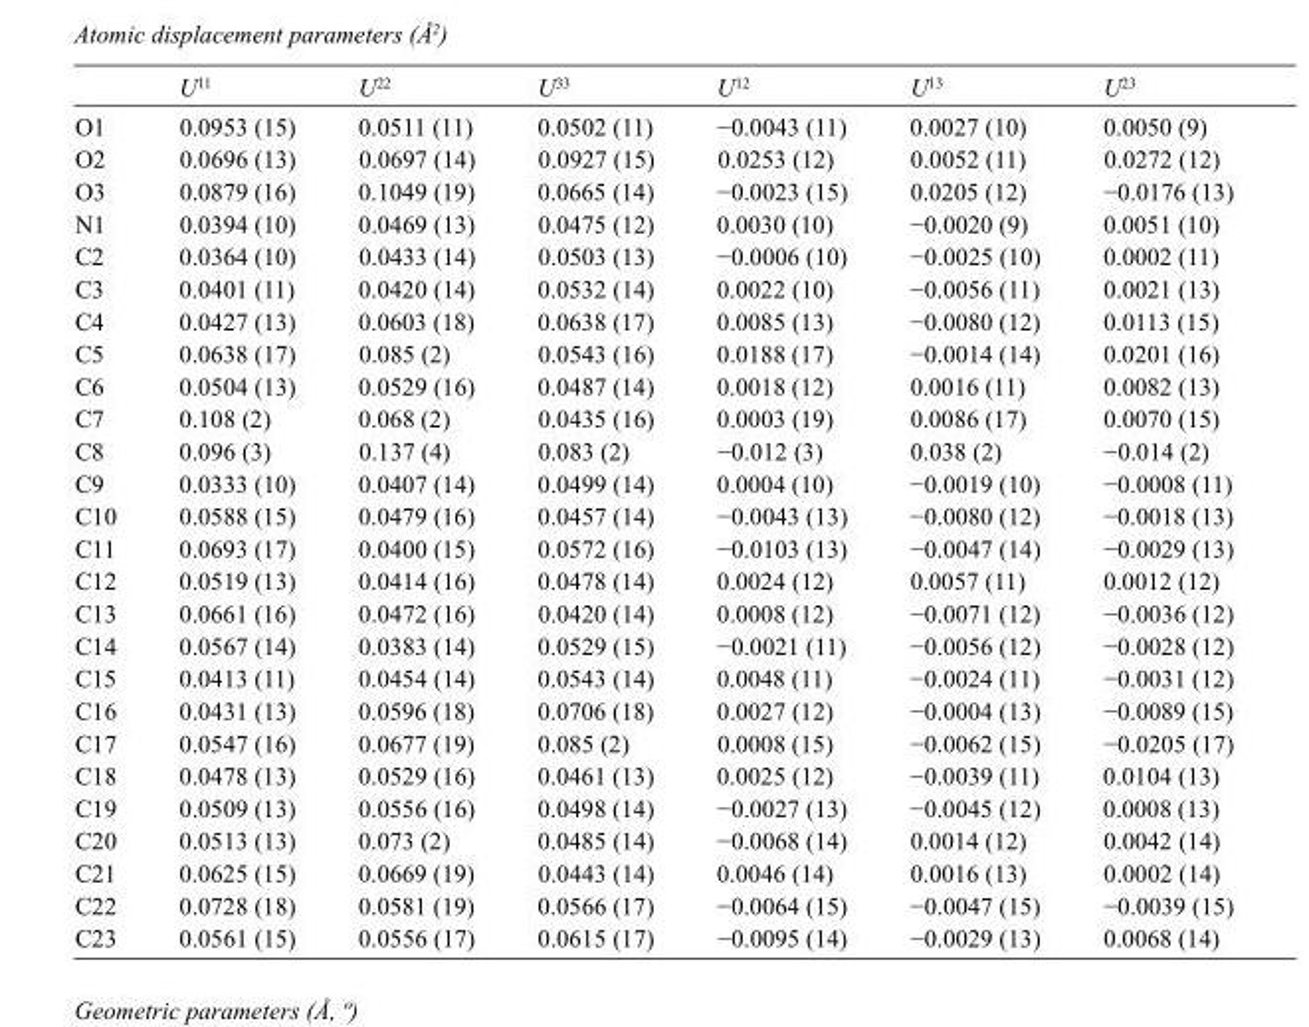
<table><thead><tr><td></td><td>U<sup>11</sup></td><td>U<sup>22</sup></td><td>U<sup>33</sup></td><td>U<sup>12</sup></td><td>U<sup>13</sup></td><td>U<sup>23</sup></td></tr></thead><tbody><tr><td>O1</td><td>0.0953 (15)</td><td>0.0511 (11)</td><td>0.0502 (11)</td><td>−0.0043 (11)</td><td>0.0027 (10)</td><td>0.0050 (9)</td></tr><tr><td>O2</td><td>0.0696 (13)</td><td>0.0697 (14)</td><td>0.0927 (15)</td><td>0.0253 (12)</td><td>0.0052 (11)</td><td>0.0272 (12)</td></tr><tr><td>O3</td><td>0.0879 (16)</td><td>0.1049 (19)</td><td>0.0665 (14)</td><td>−0.0023 (15)</td><td>0.0205 (12)</td><td>−0.0176 (13)</td></tr><tr><td>N1</td><td>0.0394 (10)</td><td>0.0469 (13)</td><td>0.0475 (12)</td><td>0.0030 (10)</td><td>−0.0020 (9)</td><td>0.0051 (10)</td></tr><tr><td>C2</td><td>0.0364 (10)</td><td>0.0433 (14)</td><td>0.0503 (13)</td><td>−0.0006 (10)</td><td>−0.0025 (10)</td><td>0.0002 (11)</td></tr><tr><td>C3</td><td>0.0401 (11)</td><td>0.0420 (14)</td><td>0.0532 (14)</td><td>0.0022 (10)</td><td>−0.0056 (11)</td><td>0.0021 (13)</td></tr><tr><td>C4</td><td>0.0427 (13)</td><td>0.0603 (18)</td><td>0.0638 (17)</td><td>0.0085 (13)</td><td>−0.0080 (12)</td><td>0.0113 (15)</td></tr><tr><td>C5</td><td>0.0638 (17)</td><td>0.085 (2)</td><td>0.0543 (16)</td><td>0.0188 (17)</td><td>−0.0014 (14)</td><td>0.0201 (16)</td></tr><tr><td>C6</td><td>0.0504 (13)</td><td>0.0529 (16)</td><td>0.0487 (14)</td><td>0.0018 (12)</td><td>0.0016 (11)</td><td>0.0082 (13)</td></tr><tr><td>C7</td><td>0.108 (2)</td><td>0.068 (2)</td><td>0.0435 (16)</td><td>0.0003 (19)</td><td>0.0086 (17)</td><td>0.0070 (15)</td></tr><tr><td>C8</td><td>0.096 (3)</td><td>0.137 (4)</td><td>0.083 (2)</td><td>−0.012 (3)</td><td>0.038 (2)</td><td>−0.014 (2)</td></tr><tr><td>C9</td><td>0.0333 (10)</td><td>0.0407 (14)</td><td>0.0499 (14)</td><td>0.0004 (10)</td><td>−0.0019 (10)</td><td>−0.0008 (11)</td></tr><tr><td>C10</td><td>0.0588 (15)</td><td>0.0479 (16)</td><td>0.0457 (14)</td><td>−0.0043 (13)</td><td>−0.0080 (12)</td><td>−0.0018 (13)</td></tr><tr><td>C11</td><td>0.0693 (17)</td><td>0.0400 (15)</td><td>0.0572 (16)</td><td>−0.0103 (13)</td><td>−0.0047 (14)</td><td>−0.0029 (13)</td></tr><tr><td>C12</td><td>0.0519 (13)</td><td>0.0414 (16)</td><td>0.0478 (14)</td><td>0.0024 (12)</td><td>0.0057 (11)</td><td>0.0012 (12)</td></tr><tr><td>C13</td><td>0.0661 (16)</td><td>0.0472 (16)</td><td>0.0420 (14)</td><td>0.0008 (12)</td><td>−0.0071 (12)</td><td>−0.0036 (12)</td></tr><tr><td>C14</td><td>0.0567 (14)</td><td>0.0383 (14)</td><td>0.0529 (15)</td><td>−0.0021 (11)</td><td>−0.0056 (12)</td><td>−0.0028 (12)</td></tr><tr><td>C15</td><td>0.0413 (11)</td><td>0.0454 (14)</td><td>0.0543 (14)</td><td>0.0048 (11)</td><td>−0.0024 (11)</td><td>−0.0031 (12)</td></tr><tr><td>C16</td><td>0.0431 (13)</td><td>0.0596 (18)</td><td>0.0706 (18)</td><td>0.0027 (12)</td><td>−0.0004 (13)</td><td>−0.0089 (15)</td></tr><tr><td>C17</td><td>0.0547 (16)</td><td>0.0677 (19)</td><td>0.085 (2)</td><td>0.0008 (15)</td><td>−0.0062 (15)</td><td>−0.0205 (17)</td></tr><tr><td>C18</td><td>0.0478 (13)</td><td>0.0529 (16)</td><td>0.0461 (13)</td><td>0.0025 (12)</td><td>−0.0039 (11)</td><td>0.0104 (13)</td></tr><tr><td>C19</td><td>0.0509 (13)</td><td>0.0556 (16)</td><td>0.0498 (14)</td><td>−0.0027 (13)</td><td>−0.0045 (12)</td><td>0.0008 (13)</td></tr><tr><td>C20</td><td>0.0513 (13)</td><td>0.073 (2)</td><td>0.0485 (14)</td><td>−0.0068 (14)</td><td>0.0014 (12)</td><td>0.0042 (14)</td></tr><tr><td>C21</td><td>0.0625 (15)</td><td>0.0669 (19)</td><td>0.0443 (14)</td><td>0.0046 (14)</td><td>0.0016 (13)</td><td>0.0002 (14)</td></tr><tr><td>C22</td><td>0.0728 (18)</td><td>0.0581 (19)</td><td>0.0566 (17)</td><td>−0.0064 (15)</td><td>−0.0047 (15)</td><td>−0.0039 (15)</td></tr><tr><td>C23</td><td>0.0561 (15)</td><td>0.0556 (17)</td><td>0.0615 (17)</td><td>−0.0095 (14)</td><td>−0.0029 (13)</td><td>0.0068 (14)</td></tr></tbody></table>